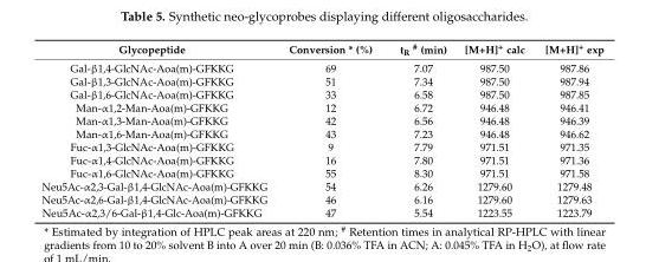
<table><thead><tr><td>Glycopeptide</td><td>Conversion * (%)</td><td>t<sub>R</sub> <sup>#</sup> (min)</td><td>[M+H]<sup>+</sup> calc</td><td>[M+H]<sup>+</sup> exp</td></tr></thead><tbody><tr><td>Gal-β1,4-GlcNAc-Aoa(m)-GFKKG</td><td>69</td><td>7.07</td><td>987.50</td><td>987.86</td></tr><tr><td>Gal-β1,3-GlcNAc-Aoa(m)-GFKKG</td><td>51</td><td>7.34</td><td>987.50</td><td>987.94</td></tr><tr><td>Gal-β1,6-GlcNAc-Aoa(m)-GFKKG</td><td>33</td><td>6.58</td><td>987.50</td><td>987.85</td></tr><tr><td>Man-α1,2-Man-Aoa(m)-GFKKG</td><td>12</td><td>6.72</td><td>946.48</td><td>946.41</td></tr><tr><td>Man-α1,3-Man-Aoa(m)-GFKKG</td><td>42</td><td>6.56</td><td>946.48</td><td>946.39</td></tr><tr><td>Man-α1,6-Man-Aoa(m)-GFKKG</td><td>43</td><td>7.23</td><td>946.48</td><td>946.62</td></tr><tr><td>Fuc-α1,3-GlcNAc-Aoa(m)-GFKKG</td><td>9</td><td>7.79</td><td>971.51</td><td>971.35</td></tr><tr><td>Fuc-α1,4-GlcNAc-Aoa(m)-GFKKG</td><td>16</td><td>7.80</td><td>971.51</td><td>971.36</td></tr><tr><td>Fuc-α1,6-GlcNAc-Aoa(m)-GFKKG</td><td>55</td><td>8.30</td><td>971.51</td><td>971.58</td></tr><tr><td>Neu5Ac-α2,3-Gal-β1,4-GlcNAc-Aoa(m)-GFKKG</td><td>54</td><td>6.26</td><td>1279.60</td><td>1279.48</td></tr><tr><td>Neu5Ac-α2,6-Gal-β1,4-GlcNAc-Aoa(m)-GFKKG</td><td>46</td><td>6.16</td><td>1279.60</td><td>1279.63</td></tr><tr><td>Neu5Ac-α2,3/6-Gal-β1,4-Glc-Aoa(m)-GFKKG</td><td>47</td><td>5.54</td><td>1223.55</td><td>1223.79</td></tr></tbody></table>